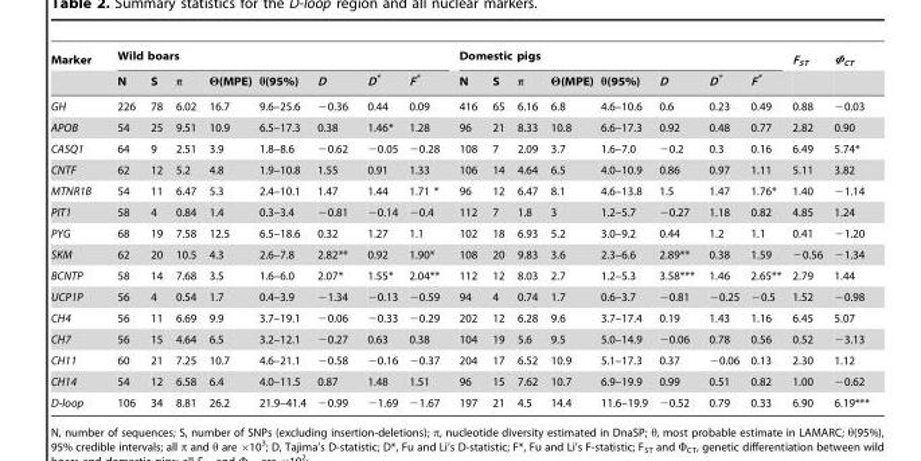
<table><thead><tr><td rowspan="2">Marker</td><td colspan="8">Wild boars</td><td colspan="8">Domestic pigs</td><td rowspan="2">F<sub>ST</sub></td><td rowspan="2">Φ<sub>CT</sub></td></tr><tr><td>N</td><td>S</td><td>π</td><td>Θ(MPE)</td><td>θ(95%)</td><td>D</td><td>D*</td><td>F*</td><td>N</td><td>S</td><td>π</td><td>Θ(MPE)</td><td>θ(95%)</td><td>D</td><td>D*</td><td>F*</td></tr></thead><tbody><tr><td>GH</td><td>226</td><td>78</td><td>6.02</td><td>16.7</td><td>9.6–25.6</td><td>−0.36</td><td>0.44</td><td>0.09</td><td>416</td><td>65</td><td>6.16</td><td>6.8</td><td>4.6–10.6</td><td>0.6</td><td>0.23</td><td>0.49</td><td>0.88</td><td>−0.03</td></tr><tr><td>APOB</td><td>54</td><td>25</td><td>9.51</td><td>10.9</td><td>6.5–17.3</td><td>0.38</td><td>1.46*</td><td>1.28</td><td>96</td><td>21</td><td>8.33</td><td>10.8</td><td>6.6–17.3</td><td>0.92</td><td>0.48</td><td>0.77</td><td>2.82</td><td>0.90</td></tr><tr><td>CASQ1</td><td>64</td><td>9</td><td>2.51</td><td>3.9</td><td>1.8–8.6</td><td>−0.62</td><td>−0.05</td><td>−0.28</td><td>108</td><td>7</td><td>2.09</td><td>3.7</td><td>1.6–7.0</td><td>−0.2</td><td>0.3</td><td>0.16</td><td>6.49</td><td>5.74*</td></tr><tr><td>CNTF</td><td>62</td><td>12</td><td>5.2</td><td>4.8</td><td>1.9–10.8</td><td>1.55</td><td>0.91</td><td>1.33</td><td>106</td><td>14</td><td>4.64</td><td>6.5</td><td>4.0–10.9</td><td>0.86</td><td>0.97</td><td>1.11</td><td>5.11</td><td>3.82</td></tr><tr><td>MTNR1B</td><td>54</td><td>11</td><td>6.47</td><td>5.3</td><td>2.4–10.1</td><td>1.47</td><td>1.44</td><td>1.71 *</td><td>96</td><td>12</td><td>6.47</td><td>8.1</td><td>4.6–13.8</td><td>1.5</td><td>1.47</td><td>1.76*</td><td>1.40</td><td>−1.14</td></tr><tr><td>PIT1</td><td>58</td><td>4</td><td>0.84</td><td>1.4</td><td>0.3–3.4</td><td>−0.81</td><td>−0.14</td><td>−0.4</td><td>112</td><td>7</td><td>1.8</td><td>3</td><td>1.2–5.7</td><td>−0.27</td><td>1.18</td><td>0.82</td><td>4.85</td><td>1.24</td></tr><tr><td>PYG</td><td>68</td><td>19</td><td>7.58</td><td>12.5</td><td>6.5–18.6</td><td>0.32</td><td>1.27</td><td>1.1</td><td>102</td><td>18</td><td>6.93</td><td>5.2</td><td>3.0–9.2</td><td>0.44</td><td>1.2</td><td>1.1</td><td>0.41</td><td>−1.20</td></tr><tr><td>SKM</td><td>62</td><td>20</td><td>10.5</td><td>4.3</td><td>2.6–7.8</td><td>2.82**</td><td>0.92</td><td>1.90*</td><td>108</td><td>20</td><td>9.83</td><td>3.6</td><td>2.3–6.6</td><td>2.89**</td><td>0.38</td><td>1.59</td><td>−0.56</td><td>−1.34</td></tr><tr><td>BCNTP</td><td>58</td><td>14</td><td>7.68</td><td>3.5</td><td>1.6–6.0</td><td>2.07*</td><td>1.55*</td><td>2.04**</td><td>112</td><td>12</td><td>8.03</td><td>2.7</td><td>1.2–5.3</td><td>3.58***</td><td>1.46</td><td>2.65**</td><td>2.79</td><td>1.44</td></tr><tr><td>UCP1P</td><td>56</td><td>4</td><td>0.54</td><td>1.7</td><td>0.4–3.9</td><td>−1.34</td><td>−0.13</td><td>−0.59</td><td>94</td><td>4</td><td>0.74</td><td>1.7</td><td>0.6–3.7</td><td>−0.81</td><td>−0.25</td><td>−0.5</td><td>1.52</td><td>−0.98</td></tr><tr><td>CH4</td><td>56</td><td>11</td><td>6.69</td><td>9.9</td><td>3.7–19.1</td><td>−0.06</td><td>−0.33</td><td>−0.29</td><td>202</td><td>12</td><td>6.28</td><td>9.6</td><td>3.7–17.4</td><td>0.19</td><td>1.43</td><td>1.16</td><td>6.45</td><td>5.07</td></tr><tr><td>CH7</td><td>56</td><td>15</td><td>4.64</td><td>6.5</td><td>3.2–12.1</td><td>−0.27</td><td>0.63</td><td>0.38</td><td>104</td><td>19</td><td>5.6</td><td>9.5</td><td>5.0–14.9</td><td>−0.06</td><td>0.78</td><td>0.56</td><td>0.52</td><td>−3.13</td></tr><tr><td>CH11</td><td>60</td><td>21</td><td>7.25</td><td>10.7</td><td>4.6–21.1</td><td>−0.58</td><td>−0.16</td><td>−0.37</td><td>204</td><td>17</td><td>6.52</td><td>10.9</td><td>5.1–17.3</td><td>0.37</td><td>−0.06</td><td>0.13</td><td>2.30</td><td>1.12</td></tr><tr><td>CH14</td><td>54</td><td>12</td><td>6.58</td><td>6.4</td><td>4.0–11.5</td><td>0.87</td><td>1.48</td><td>1.51</td><td>96</td><td>15</td><td>7.62</td><td>10.7</td><td>6.9–19.9</td><td>0.99</td><td>0.51</td><td>0.82</td><td>1.00</td><td>−0.62</td></tr><tr><td>D-loop</td><td>106</td><td>34</td><td>8.81</td><td>26.2</td><td>21.9–41.4</td><td>−0.99</td><td>−1.69</td><td>−1.67</td><td>197</td><td>21</td><td>4.5</td><td>14.4</td><td>11.6–19.9</td><td>−0.52</td><td>0.79</td><td>0.33</td><td>6.90</td><td>6.19***</td></tr></tbody></table>